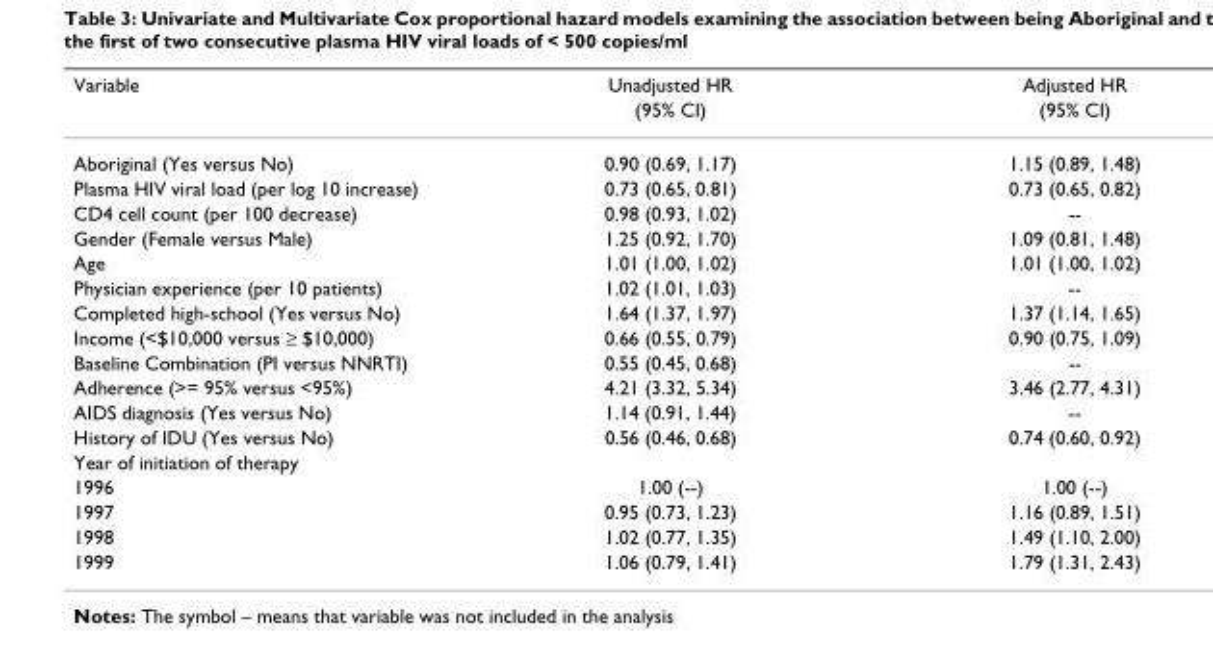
<table><thead><tr><td rowspan="2">Variable</td><td rowspan="2">Unadjusted HR (95% CI)</td><td rowspan="2">Adjusted HR (95% CI)</td></tr><tr></tr></thead><tbody><tr><td>Aboriginal (Yes versus No)</td><td>0.90 (0.69, 1.17)</td><td>1.15 (0.89, 1.48)</td></tr><tr><td>Plasma HIV viral load (per log 10 increase)</td><td>0.73 (0.65, 0.81)</td><td>0.73 (0.65, 0.82)</td></tr><tr><td>CD4 cell count (per 100 decrease)</td><td>0.98 (0.93, 1.02)</td><td>--</td></tr><tr><td>Gender (Female versus Male)</td><td>1.25 (0.92, 1.70)</td><td>1.09 (0.81, 1.48)</td></tr><tr><td>Age</td><td>1.01 (1.00, 1.02)</td><td>1.01 (1.00, 1.02)</td></tr><tr><td>Physician experience (per 10 patients)</td><td>1.02 (1.01, 1.03)</td><td>--</td></tr><tr><td>Completed high-school (Yes versus No)</td><td>1.64 (1.37, 1.97)</td><td>1.37 (1.14, 1.65)</td></tr><tr><td>Income (&lt;$10,000 versus ≥ $10,000)</td><td>0.66 (0.55, 0.79)</td><td>0.90 (0.75, 1.09)</td></tr><tr><td>Baseline Combination (PI versus NNRTI)</td><td>0.55 (0.45, 0.68)</td><td>--</td></tr><tr><td>Adherence (&gt;= 95% versus &lt;95%)</td><td>4.21 (3.32, 5.34)</td><td>3.46 (2.77, 4.31)</td></tr><tr><td>AIDS diagnosis (Yes versus No)</td><td>1.14 (0.91, 1.44)</td><td>--</td></tr><tr><td>History of IDU (Yes versus No)</td><td>0.56 (0.46, 0.68)</td><td>0.74 (0.60, 0.92)</td></tr><tr><td colspan="3">Year of initiation of therapy</td></tr><tr><td>1996</td><td>1.00 (--)</td><td>1.00 (--)</td></tr><tr><td>1997</td><td>0.95 (0.73, 1.23)</td><td>1.16 (0.89, 1.51)</td></tr><tr><td>1998</td><td>1.02 (0.77, 1.35)</td><td>1.49 (1.10, 2.00)</td></tr><tr><td>1999</td><td>1.06 (0.79, 1.41)</td><td>1.79 (1.31, 2.43)</td></tr></tbody></table>